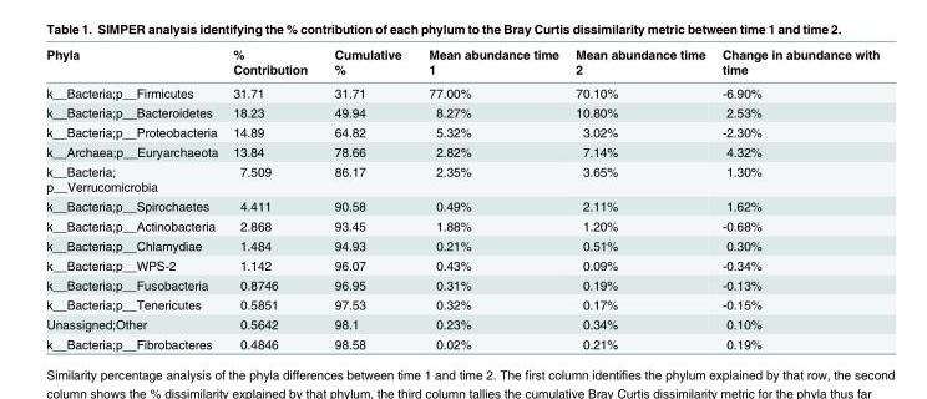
<table><thead><tr><td>Phyla</td><td>% Contribution</td><td>Cumulative %</td><td>Mean abundance time 1</td><td>Mean abundance time 2</td><td>Change in abundance with time</td></tr></thead><tbody><tr><td>k__Bacteria;p__Firmicutes</td><td>31.71</td><td>31.71</td><td>77.00%</td><td>70.10%</td><td>-6.90%</td></tr><tr><td>k__Bacteria;p__Bacteroidetes</td><td>18.23</td><td>49.94</td><td>8.27%</td><td>10.80%</td><td>2.53%</td></tr><tr><td>k__Bacteria;p__Proteobacteria</td><td>14.89</td><td>64.82</td><td>5.32%</td><td>3.02%</td><td>-2.30%</td></tr><tr><td>k__Archaea;p__Euryarchaeota</td><td>13.84</td><td>78.66</td><td>2.82%</td><td>7.14%</td><td>4.32%</td></tr><tr><td>k__Bacteria; p__Verrucomicrobia</td><td>7.509</td><td>86.17</td><td>2.35%</td><td>3.65%</td><td>1.30%</td></tr><tr><td>k__Bacteria;p__Spirochaetes</td><td>4.411</td><td>90.58</td><td>0.49%</td><td>2.11%</td><td>1.62%</td></tr><tr><td>k__Bacteria;p__Actinobacteria</td><td>2.868</td><td>93.45</td><td>1.88%</td><td>1.20%</td><td>-0.68%</td></tr><tr><td>k__Bacteria;p__Chlamydiae</td><td>1.484</td><td>94.93</td><td>0.21%</td><td>0.51%</td><td>0.30%</td></tr><tr><td>k__Bacteria;p__WPS-2</td><td>1.142</td><td>96.07</td><td>0.43%</td><td>0.09%</td><td>-0.34%</td></tr><tr><td>k__Bacteria;p__Fusobacteria</td><td>0.8746</td><td>96.95</td><td>0.31%</td><td>0.19%</td><td>-0.13%</td></tr><tr><td>k__Bacteria;p__Tenericutes</td><td>0.5851</td><td>97.53</td><td>0.32%</td><td>0.17%</td><td>-0.15%</td></tr><tr><td>Unassigned;Other</td><td>0.5642</td><td>98.1</td><td>0.23%</td><td>0.34%</td><td>0.10%</td></tr><tr><td>k__Bacteria;p__Fibrobacteres</td><td>0.4846</td><td>98.58</td><td>0.02%</td><td>0.21%</td><td>0.19%</td></tr></tbody></table>